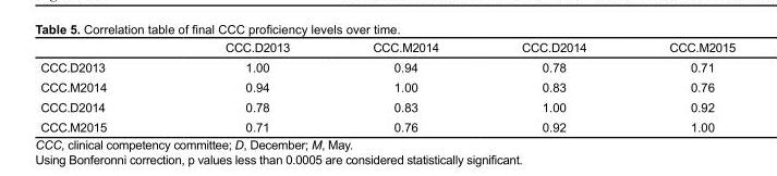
<table><thead><tr><td></td><td>CCC.D2013</td><td>CCC.M2014</td><td>CCC.D2014</td><td>CCC.M2015</td></tr></thead><tbody><tr><td>CCC.D2013</td><td>1.00</td><td>0.94</td><td>0.78</td><td>0.71</td></tr><tr><td>CCC.M2014</td><td>0.94</td><td>1.00</td><td>0.83</td><td>0.76</td></tr><tr><td>CCC.D2014</td><td>0.78</td><td>0.83</td><td>1.00</td><td>0.92</td></tr><tr><td>CCC.M2015</td><td>0.71</td><td>0.76</td><td>0.92</td><td>1.00</td></tr></tbody></table>